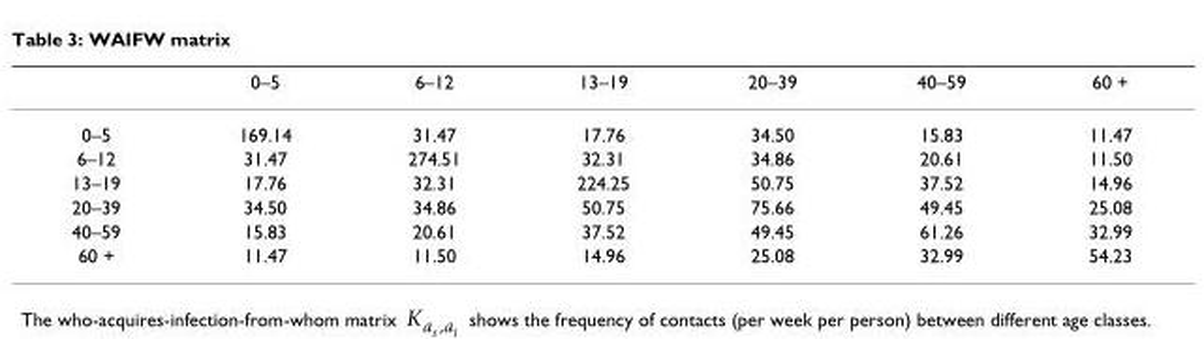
<table><thead><tr><td></td><td>0–5</td><td>6–12</td><td>13–19</td><td>20–39</td><td>40–59</td><td>60 +</td></tr></thead><tbody><tr><td>0–5</td><td>169.14</td><td>31.47</td><td>17.76</td><td>34.50</td><td>15.83</td><td>11.47</td></tr><tr><td>6–12</td><td>31.47</td><td>274.51</td><td>32.31</td><td>34.86</td><td>20.61</td><td>11.50</td></tr><tr><td>13–19</td><td>17.76</td><td>32.31</td><td>224.25</td><td>50.75</td><td>37.52</td><td>14.96</td></tr><tr><td>20–39</td><td>34.50</td><td>34.86</td><td>50.75</td><td>75.66</td><td>49.45</td><td>25.08</td></tr><tr><td>40–59</td><td>15.83</td><td>20.61</td><td>37.52</td><td>49.45</td><td>61.26</td><td>32.99</td></tr><tr><td>60 +</td><td>11.47</td><td>11.50</td><td>14.96</td><td>25.08</td><td>32.99</td><td>54.23</td></tr></tbody></table>